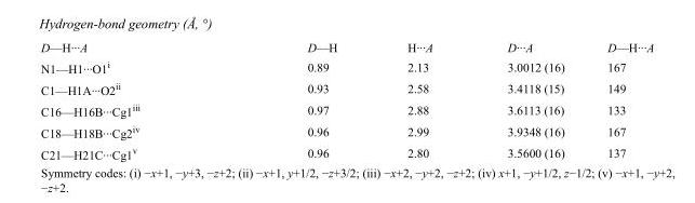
<table><tbody><tr><td>D—H···A</td><td>D—H</td><td>H···A</td><td>D···A</td><td>D—H···A</td></tr><tr><td>N1—H1···O1<sup>i</sup></td><td>0.89</td><td>2.13</td><td>3.0012 (16)</td><td>167</td></tr><tr><td>C1—H1A···O2<sup>ii</sup></td><td>0.93</td><td>2.58</td><td>3.4118 (15)</td><td>149</td></tr><tr><td>C16—H16B···Cg1<sup>iii</sup></td><td>0.97</td><td>2.88</td><td>3.6113 (16)</td><td>133</td></tr><tr><td>C18—H18B···Cg2<sup>iv</sup></td><td>0.96</td><td>2.99</td><td>3.9348 (16)</td><td>167</td></tr><tr><td>C21—H21C···Cg1<sup>v</sup></td><td>0.96</td><td>2.80</td><td>3.5600 (16)</td><td>137</td></tr></tbody></table>